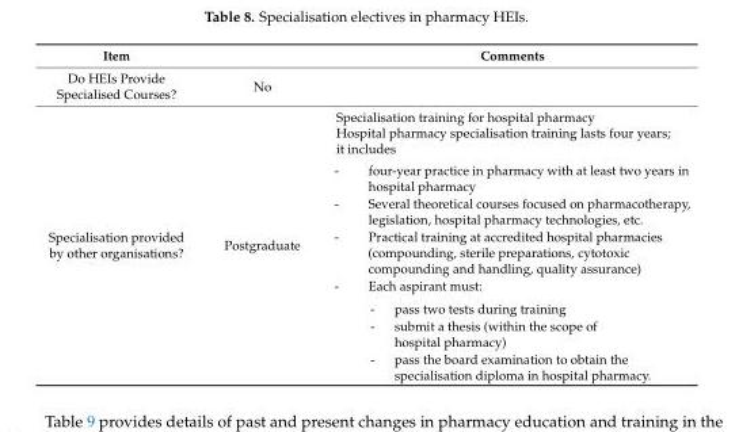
<table><thead><tr><td>Item</td><td></td><td>Comments</td></tr></thead><tbody><tr><td>Do HEIs Provide Specialised Courses?</td><td>No</td><td></td></tr><tr><td>Specialisation provided by other organisations?</td><td>Postgraduate</td><td>Specialisation training for hospital pharmacy Hospital pharmacy specialisation training lasts four years; it includes - four-year practice in pharmacy with at least two years in hospital pharmacy - Several theoretical courses focused on pharmacotherapy, legislation, hospital pharmacy technologies, etc. - Practical training at accredited hospital pharmacies (compounding, sterile preparations, cytotoxic compounding and handling, quality assurance) - Each aspirant must: - pass two tests during training - submit a thesis (within the scope of hospital pharmacy) - pass the board examination to obtain the specialisation diploma in hospital pharmacy.</td></tr></tbody></table>